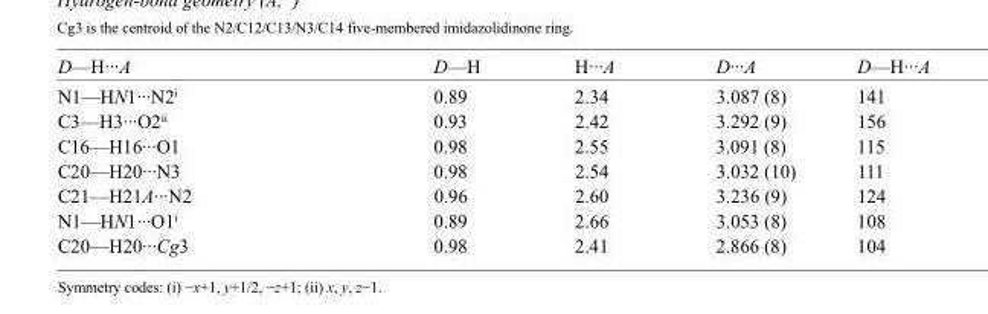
<table><tbody><tr><td>D—H···A</td><td>D—H</td><td>H···A</td><td>D···A</td><td>D—H···A</td></tr><tr><td>N1—HN1···N2<sup>i</sup></td><td>0.89</td><td>2.34</td><td>3.087 (8)</td><td>141</td></tr><tr><td>C3—H3···O2<sup>ii</sup></td><td>0.93</td><td>2.42</td><td>3.292 (9)</td><td>156</td></tr><tr><td>C16—H16···O1</td><td>0.98</td><td>2.55</td><td>3.091 (8)</td><td>115</td></tr><tr><td>C20—H20···N3</td><td>0.98</td><td>2.54</td><td>3.032 (10)</td><td>111</td></tr><tr><td>C21—H21A···N2</td><td>0.96</td><td>2.60</td><td>3.236 (9)</td><td>124</td></tr><tr><td>N1—HN1···O1<sup>i</sup></td><td>0.89</td><td>2.66</td><td>3.053 (8)</td><td>108</td></tr><tr><td>C20—H20···Cg3</td><td>0.98</td><td>2.41</td><td>2.866 (8)</td><td>104</td></tr></tbody></table>